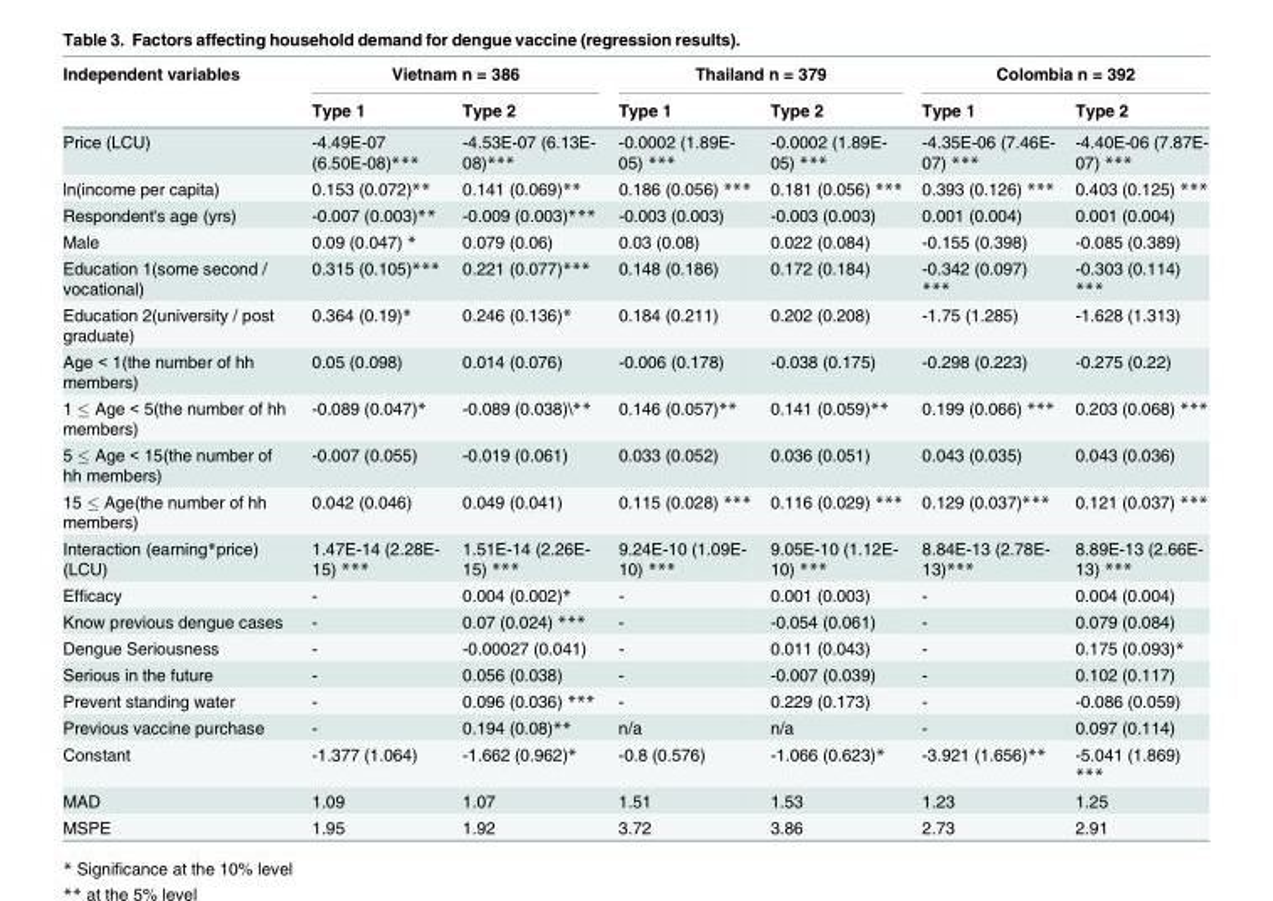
<table><thead><tr><td rowspan="2">Independent variables</td><td colspan="2">Vietnam n = 386</td><td colspan="2">Thailand n = 379</td><td colspan="2">Colombia n = 392</td></tr><tr><td>Type 1</td><td>Type 2</td><td>Type 1</td><td>Type 2</td><td>Type 1</td><td>Type 2</td></tr></thead><tbody><tr><td>Price (LCU)</td><td>-4.49E-07 (6.50E-08)***</td><td>-4.53E-07 (6.13E- 08)***</td><td>-0.0002 (1.89E- 05) ***</td><td>-0.0002 (1.89E- 05) ***</td><td>-4.35E-06 (7.46E- 07) ***</td><td>-4.40E-06 (7.87E- 07) ***</td></tr><tr><td>ln(income per capita)</td><td>0.153 (0.072)**</td><td>0.141 (0.069)**</td><td>0.186 (0.056) ***</td><td>0.181 (0.056) ***</td><td>0.393 (0.126) ***</td><td>0.403 (0.125) ***</td></tr><tr><td>Respondent&#x27;s age (yrs)</td><td>-0.007 (0.003)**</td><td>-0.009 (0.003)***</td><td>-0.003 (0.003)</td><td>-0.003 (0.003)</td><td>0.001 (0.004)</td><td>0.001 (0.004)</td></tr><tr><td>Male</td><td>0.09 (0.047) *</td><td>0.079 (0.06)</td><td>0.03 (0.08)</td><td>0.022 (0.084)</td><td>-0.155 (0.398)</td><td>-0.085 (0.389)</td></tr><tr><td>Education 1(some second / vocational)</td><td>0.315 (0.105)***</td><td>0.221 (0.077)***</td><td>0.148 (0.186)</td><td>0.172 (0.184)</td><td>-0.342 (0.097) ***</td><td>-0.303 (0.114) ***</td></tr><tr><td>Education 2(university / post graduate)</td><td>0.364 (0.19)*</td><td>0.246 (0.136)*</td><td>0.184 (0.211)</td><td>0.202 (0.208)</td><td>-1.75 (1.285)</td><td>-1.628 (1.313)</td></tr><tr><td>Age &lt; 1(the number of hh members)</td><td>0.05 (0.098)</td><td>0.014 (0.076)</td><td>-0.006 (0.178)</td><td>-0.038 (0.175)</td><td>-0.298 (0.223)</td><td>-0.275 (0.22)</td></tr><tr><td>1 ≤ Age &lt; 5(the number of hh members)</td><td>-0.089 (0.047)*</td><td>-0.089 (0.038)\**</td><td>0.146 (0.057)**</td><td>0.141 (0.059)**</td><td>0.199 (0.066) ***</td><td>0.203 (0.068) ***</td></tr><tr><td>5 ≤ Age &lt; 15(the number of hh members)</td><td>-0.007 (0.055)</td><td>-0.019 (0.061)</td><td>0.033 (0.052)</td><td>0.036 (0.051)</td><td>0.043 (0.035)</td><td>0.043 (0.036)</td></tr><tr><td>15 ≤ Age(the number of hh members)</td><td>0.042 (0.046)</td><td>0.049 (0.041)</td><td>0.115 (0.028) ***</td><td>0.116 (0.029) ***</td><td>0.129 (0.037)***</td><td>0.121 (0.037) ***</td></tr><tr><td>Interaction (earning*price) (LCU)</td><td>1.47E-14 (2.28E- 15) ***</td><td>1.51E-14 (2.26E- 15) ***</td><td>9.24E-10 (1.09E- 10) ***</td><td>9.05E-10 (1.12E- 10) ***</td><td>8.84E-13 (2.78E- 13)***</td><td>8.89E-13 (2.66E- 13) ***</td></tr><tr><td>Efficacy</td><td>-</td><td>0.004 (0.002)*</td><td>-</td><td>0.001 (0.003)</td><td>-</td><td>0.004 (0.004)</td></tr><tr><td>Know previous dengue cases</td><td>-</td><td>0.07 (0.024) ***</td><td>-</td><td>-0.054 (0.061)</td><td>-</td><td>0.079 (0.084)</td></tr><tr><td>Dengue Seriousness</td><td>-</td><td>-0.00027 (0.041)</td><td>-</td><td>0.011 (0.043)</td><td>-</td><td>0.175 (0.093)*</td></tr><tr><td>Serious in the future</td><td>-</td><td>0.056 (0.038)</td><td>-</td><td>-0.007 (0.039)</td><td>-</td><td>0.102 (0.117)</td></tr><tr><td>Prevent standing water</td><td>-</td><td>0.096 (0.036) ***</td><td>-</td><td>0.229 (0.173)</td><td>-</td><td>-0.086 (0.059)</td></tr><tr><td>Previous vaccine purchase</td><td>-</td><td>0.194 (0.08)**</td><td>n/a</td><td>n/a</td><td>-</td><td>0.097 (0.114)</td></tr><tr><td>Constant</td><td>-1.377 (1.064)</td><td>-1.662 (0.962)*</td><td>-0.8 (0.576)</td><td>-1.066 (0.623)*</td><td>-3.921 (1.656)**</td><td>-5.041 (1.869) ***</td></tr><tr><td>MAD</td><td>1.09</td><td>1.07</td><td>1.51</td><td>1.53</td><td>1.23</td><td>1.25</td></tr><tr><td>MSPE</td><td>1.95</td><td>1.92</td><td>3.72</td><td>3.86</td><td>2.73</td><td>2.91</td></tr></tbody></table>